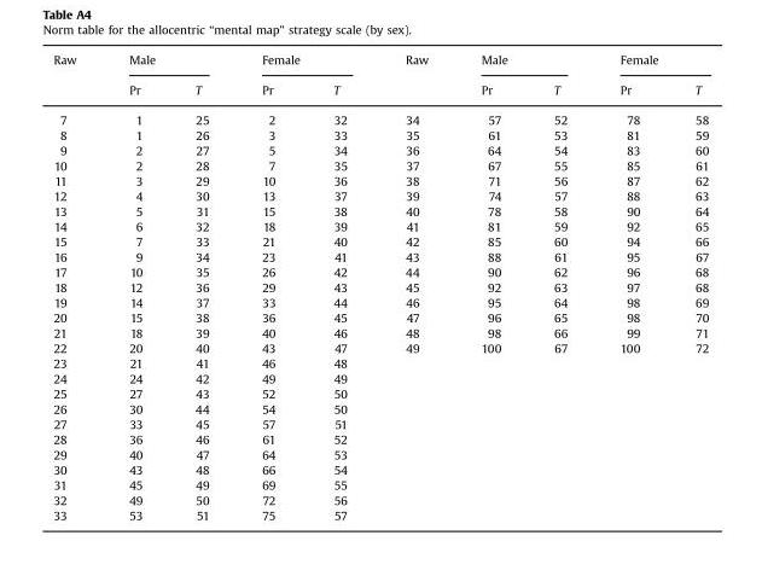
<table><thead><tr><td rowspan="2">Raw</td><td colspan="2">Male</td><td colspan="2">Female</td><td rowspan="2">Raw</td><td colspan="2">Male</td><td colspan="2">Female</td></tr><tr><td>Pr</td><td>T</td><td>Pr</td><td>T</td><td>Pr</td><td>T</td><td>Pr</td><td>T</td></tr></thead><tbody><tr><td>7</td><td>1</td><td>25</td><td>2</td><td>32</td><td>34</td><td>57</td><td>52</td><td>78</td><td>58</td></tr><tr><td>8</td><td>1</td><td>26</td><td>3</td><td>33</td><td>35</td><td>61</td><td>53</td><td>81</td><td>59</td></tr><tr><td>9</td><td>2</td><td>27</td><td>5</td><td>34</td><td>36</td><td>64</td><td>54</td><td>83</td><td>60</td></tr><tr><td>10</td><td>2</td><td>28</td><td>7</td><td>35</td><td>37</td><td>67</td><td>55</td><td>85</td><td>61</td></tr><tr><td>11</td><td>3</td><td>29</td><td>10</td><td>36</td><td>38</td><td>71</td><td>56</td><td>87</td><td>62</td></tr><tr><td>12</td><td>4</td><td>30</td><td>13</td><td>37</td><td>39</td><td>74</td><td>57</td><td>88</td><td>63</td></tr><tr><td>13</td><td>5</td><td>31</td><td>15</td><td>38</td><td>40</td><td>78</td><td>58</td><td>90</td><td>64</td></tr><tr><td>14</td><td>6</td><td>32</td><td>18</td><td>39</td><td>41</td><td>81</td><td>59</td><td>92</td><td>65</td></tr><tr><td>15</td><td>7</td><td>33</td><td>21</td><td>40</td><td>42</td><td>85</td><td>60</td><td>94</td><td>66</td></tr><tr><td>16</td><td>9</td><td>34</td><td>23</td><td>41</td><td>43</td><td>88</td><td>61</td><td>95</td><td>67</td></tr><tr><td>17</td><td>10</td><td>35</td><td>26</td><td>42</td><td>44</td><td>90</td><td>62</td><td>96</td><td>68</td></tr><tr><td>18</td><td>12</td><td>36</td><td>29</td><td>43</td><td>45</td><td>92</td><td>63</td><td>97</td><td>68</td></tr><tr><td>19</td><td>14</td><td>37</td><td>33</td><td>44</td><td>46</td><td>95</td><td>64</td><td>98</td><td>69</td></tr><tr><td>20</td><td>15</td><td>38</td><td>36</td><td>45</td><td>47</td><td>96</td><td>65</td><td>98</td><td>70</td></tr><tr><td>21</td><td>18</td><td>39</td><td>40</td><td>46</td><td>48</td><td>98</td><td>66</td><td>99</td><td>71</td></tr><tr><td>22</td><td>20</td><td>40</td><td>43</td><td>47</td><td>49</td><td>100</td><td>67</td><td>100</td><td>72</td></tr><tr><td>23</td><td>21</td><td>41</td><td>46</td><td>48</td><td></td><td></td><td></td><td></td><td></td></tr><tr><td>24</td><td>24</td><td>42</td><td>49</td><td>49</td><td></td><td></td><td></td><td></td><td></td></tr><tr><td>25</td><td>27</td><td>43</td><td>52</td><td>50</td><td></td><td></td><td></td><td></td><td></td></tr><tr><td>26</td><td>30</td><td>44</td><td>54</td><td>50</td><td></td><td></td><td></td><td></td><td></td></tr><tr><td>27</td><td>33</td><td>45</td><td>57</td><td>51</td><td></td><td></td><td></td><td></td><td></td></tr><tr><td>28</td><td>36</td><td>46</td><td>61</td><td>52</td><td></td><td></td><td></td><td></td><td></td></tr><tr><td>29</td><td>40</td><td>47</td><td>64</td><td>53</td><td></td><td></td><td></td><td></td><td></td></tr><tr><td>30</td><td>43</td><td>48</td><td>66</td><td>54</td><td></td><td></td><td></td><td></td><td></td></tr><tr><td>31</td><td>45</td><td>49</td><td>69</td><td>55</td><td></td><td></td><td></td><td></td><td></td></tr><tr><td>32</td><td>49</td><td>50</td><td>72</td><td>56</td><td></td><td></td><td></td><td></td><td></td></tr><tr><td>33</td><td>53</td><td>51</td><td>75</td><td>57</td><td></td><td></td><td></td><td></td><td></td></tr></tbody></table>